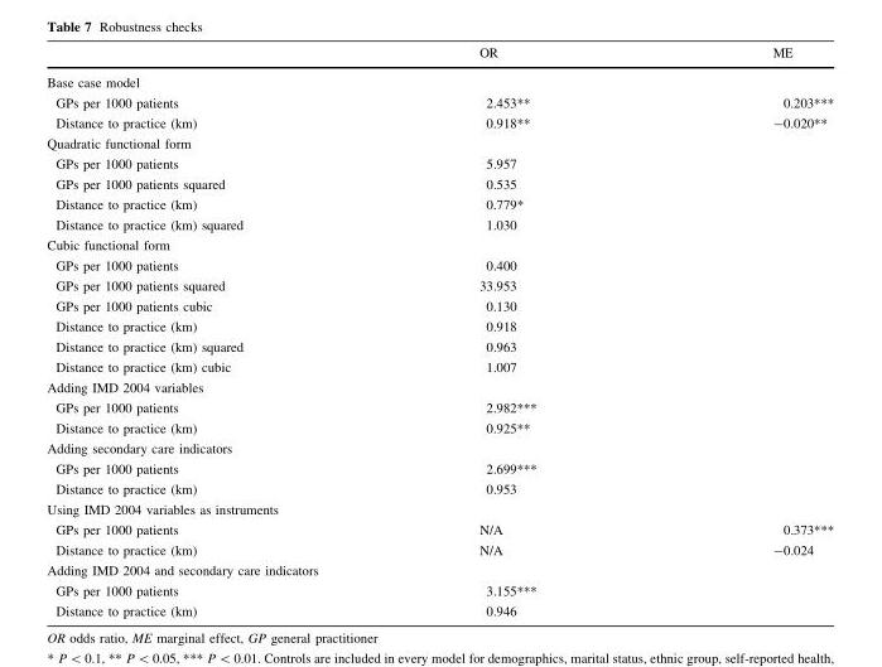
<table><thead><tr><td></td><td>OR</td><td>ME</td></tr></thead><tbody><tr><td colspan="3">Base case model</td></tr><tr><td>GPs per 1000 patients</td><td>2.453**</td><td>0.203***</td></tr><tr><td>Distance to practice (km)</td><td>0.918**</td><td>-0.020**</td></tr><tr><td colspan="3">Quadratic functional form</td></tr><tr><td>GPs per 1000 patients</td><td>5.957</td><td></td></tr><tr><td>GPs per 1000 patients squared</td><td>0.535</td><td></td></tr><tr><td>Distance to practice (km)</td><td>0.779*</td><td></td></tr><tr><td>Distance to practice (km) squared</td><td>1.030</td><td></td></tr><tr><td colspan="3">Cubic functional form</td></tr><tr><td>GPs per 1000 patients</td><td>0.400</td><td></td></tr><tr><td>GPs per 1000 patients squared</td><td>33.953</td><td></td></tr><tr><td>GPs per 1000 patients cubic</td><td>0.130</td><td></td></tr><tr><td>Distance to practice (km)</td><td>0.918</td><td></td></tr><tr><td>Distance to practice (km) squared</td><td>0.963</td><td></td></tr><tr><td>Distance to practice (km) cubic</td><td>1.007</td><td></td></tr><tr><td colspan="3">Adding IMD 2004 variables</td></tr><tr><td>GPs per 1000 patients</td><td>2.982***</td><td></td></tr><tr><td>Distance to practice (km)</td><td>0.925**</td><td></td></tr><tr><td colspan="3">Adding secondary care indicators</td></tr><tr><td>GPs per 1000 patients</td><td>2.699***</td><td></td></tr><tr><td>Distance to practice (km)</td><td>0.953</td><td></td></tr><tr><td colspan="3">Using IMD 2004 variables as instruments</td></tr><tr><td>GPs per 1000 patients</td><td>N/A</td><td>0.373***</td></tr><tr><td>Distance to practice (km)</td><td>N/A</td><td>-0.024</td></tr><tr><td colspan="3">Adding IMD 2004 and secondary care indicators</td></tr><tr><td>GPs per 1000 patients</td><td>3.155***</td><td></td></tr><tr><td>Distance to practice (km)</td><td>0.946</td><td></td></tr></tbody></table>